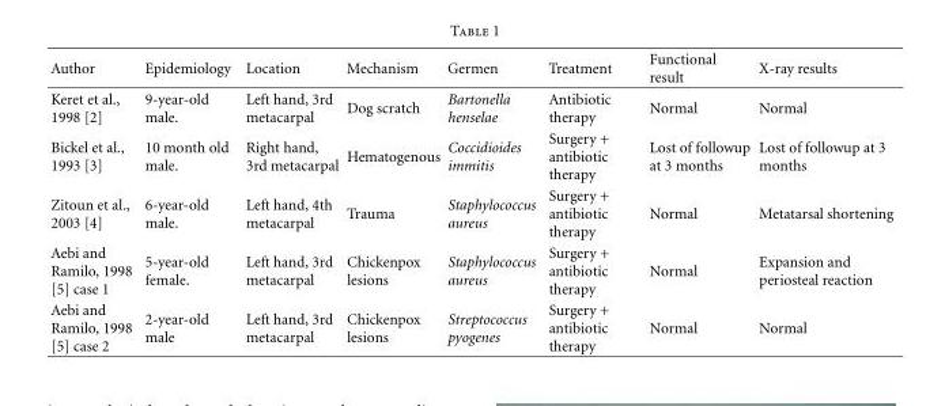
<table><thead><tr><td>Author</td><td>Epidemiology</td><td>Location</td><td>Mechanism</td><td>Germen</td><td>Treatment</td><td>Functional result</td><td>X-ray results</td></tr></thead><tbody><tr><td>Keret et al., 1998 [2]</td><td>9-year-old male.</td><td>Left hand, 3rd metacarpal</td><td>Dog scratch</td><td>Bartonella henselae</td><td>Antibiotic therapy</td><td>Normal</td><td>Normal</td></tr><tr><td>Bickel et al., 1993 [3]</td><td>10 month old male.</td><td>Right hand, 3rd metacarpal</td><td>Hematogenous</td><td>Coccidioides immitis</td><td>Surgery + antibiotic therapy</td><td>Lost of followup at 3 months</td><td>Lost of followup at 3 months</td></tr><tr><td>Zitoun et al., 2003 [4]</td><td>6-year-old male.</td><td>Left hand, 4th metacarpal</td><td>Trauma</td><td>Staphylococcus aureus</td><td>Surgery + antibiotic therapy</td><td>Normal</td><td>Metatarsal shortening</td></tr><tr><td>Aebi and Ramilo, 1998 [5] case 1</td><td>5-year-old female.</td><td>Left hand, 3rd metacarpal</td><td>Chickenpox lesions</td><td>Staphylococcus aureus</td><td>Surgery + antibiotic therapy</td><td>Normal</td><td>Expansion and periosteal reaction</td></tr><tr><td>Aebi and Ramilo, 1998 [5] case 2</td><td>2-year-old male</td><td>Left hand, 3rd metacarpal</td><td>Chickenpox lesions</td><td>Streptococcus pyogenes</td><td>Surgery + antibiotic therapy</td><td>Normal</td><td>Normal</td></tr></tbody></table>